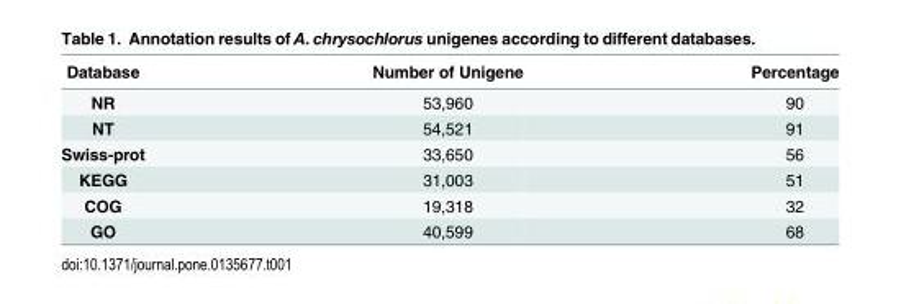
<table><thead><tr><td>Database</td><td>Number of Unigene</td><td>Percentage</td></tr></thead><tbody><tr><td>NR</td><td>53,960</td><td>90</td></tr><tr><td>NT</td><td>54,521</td><td>91</td></tr><tr><td>Swiss-prot</td><td>33,650</td><td>56</td></tr><tr><td>KEGG</td><td>31,003</td><td>51</td></tr><tr><td>COG</td><td>19,318</td><td>32</td></tr><tr><td>GO</td><td>40,599</td><td>68</td></tr></tbody></table>